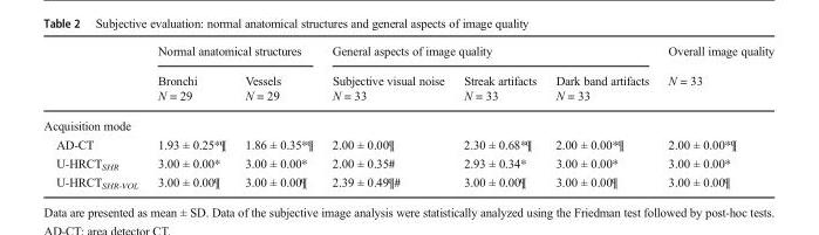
<table><thead><tr><td rowspan="2"></td><td colspan="2">Normal anatomical structures</td><td colspan="3">General aspects of image quality</td><td rowspan="2">Overall image quality N = 33</td></tr><tr><td>Bronchi N = 29</td><td>Vessels N = 29</td><td>Subjective visual noise N = 33</td><td>Streak artifacts N = 33</td><td>Dark band artifacts N = 33</td></tr></thead><tbody><tr><td colspan="7">Acquisition mode</td></tr><tr><td>AD-CT</td><td>1.93 ± 0.25*¶</td><td>1.86 ± 0.35*¶</td><td>2.00 ± 0.00¶</td><td>2.30 ± 0.68*¶</td><td>2.00 ± 0.00*¶</td><td>2.00 ± 0.00*¶</td></tr><tr><td>U-HRCT<sub>SHR</sub></td><td>3.00 ± 0.00*</td><td>3.00 ± 0.00*</td><td>2.00 ± 0.35#</td><td>2.93 ± 0.34*</td><td>3.00 ± 0.00*</td><td>3.00 ± 0.00*</td></tr><tr><td>U-HRCT<sub>SHR-VOL</sub></td><td>3.00 ± 0.00¶</td><td>3.00 ± 0.00¶</td><td>2.39 ± 0.49¶#</td><td>3.00 ± 0.00¶</td><td>3.00 ± 0.00¶</td><td>3.00 ± 0.00¶</td></tr></tbody></table>